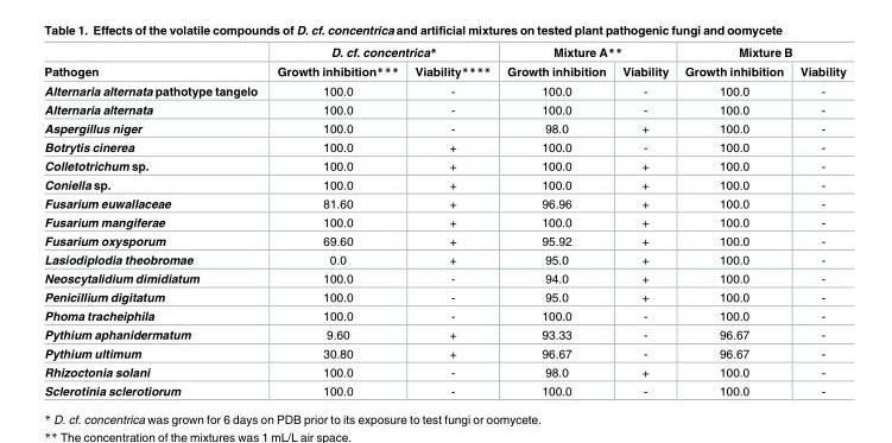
<table><thead><tr><td rowspan="2">Pathogen</td><td colspan="2">D. cf. concentrica*</td><td colspan="2">Mixture A**</td><td colspan="2">Mixture B</td></tr><tr><td>Growth inhibition***</td><td>Viability****</td><td>Growth inhibition</td><td>Viability</td><td>Growth inhibition</td><td>Viability</td></tr></thead><tbody><tr><td>Alternaria alternata pathotype tangelo</td><td>100.0</td><td>-</td><td>100.0</td><td>-</td><td>100.0</td><td>-</td></tr><tr><td>Alternaria alternata</td><td>100.0</td><td>-</td><td>100.0</td><td>-</td><td>100.0</td><td>-</td></tr><tr><td>Aspergillus niger</td><td>100.0</td><td>-</td><td>98.0</td><td>+</td><td>100.0</td><td>-</td></tr><tr><td>Botrytis cinerea</td><td>100.0</td><td>+</td><td>100.0</td><td>-</td><td>100.0</td><td>-</td></tr><tr><td>Colletotrichum sp.</td><td>100.0</td><td>+</td><td>100.0</td><td>+</td><td>100.0</td><td>-</td></tr><tr><td>Coniella sp.</td><td>100.0</td><td>+</td><td>100.0</td><td>+</td><td>100.0</td><td>-</td></tr><tr><td>Fusarium euwallaceae</td><td>81.60</td><td>+</td><td>96.96</td><td>+</td><td>100.0</td><td>-</td></tr><tr><td>Fusarium mangiferae</td><td>100.0</td><td>+</td><td>100.0</td><td>+</td><td>100.0</td><td>-</td></tr><tr><td>Fusarium oxysporum</td><td>69.60</td><td>+</td><td>95.92</td><td>+</td><td>100.0</td><td>-</td></tr><tr><td>Lasiodiplodia theobromae</td><td>0.0</td><td>+</td><td>95.0</td><td>+</td><td>100.0</td><td>-</td></tr><tr><td>Neoscytalidium dimidiatum</td><td>100.0</td><td>-</td><td>94.0</td><td>+</td><td>100.0</td><td>-</td></tr><tr><td>Penicillium digitatum</td><td>100.0</td><td>-</td><td>95.0</td><td>+</td><td>100.0</td><td>-</td></tr><tr><td>Phoma tracheiphila</td><td>100.0</td><td>-</td><td>100.0</td><td>-</td><td>100.0</td><td>-</td></tr><tr><td>Pythium aphanidermatum</td><td>9.60</td><td>+</td><td>93.33</td><td>-</td><td>96.67</td><td>-</td></tr><tr><td>Pythium ultimum</td><td>30.80</td><td>+</td><td>96.67</td><td>-</td><td>96.67</td><td>-</td></tr><tr><td>Rhizoctonia solani</td><td>100.0</td><td>-</td><td>98.0</td><td>+</td><td>100.0</td><td>-</td></tr><tr><td>Sclerotinia sclerotiorum</td><td>100.0</td><td>-</td><td>100.0</td><td>-</td><td>100.0</td><td>-</td></tr></tbody></table>